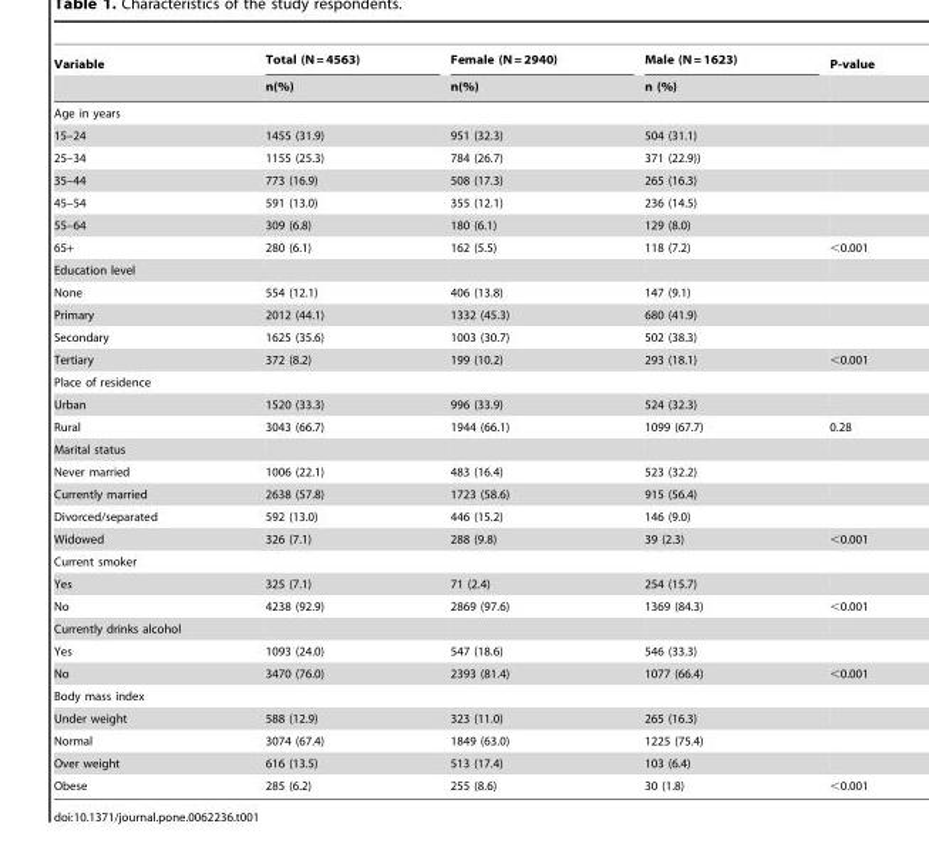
<table><thead><tr><td rowspan="2">Variable</td><td rowspan="2">Total (N = 4563) n(%)</td><td rowspan="2">Female (N = 2940) n(%)</td><td rowspan="2">Male (N = 1623) n (%)</td><td rowspan="2">P-value</td></tr><tr></tr></thead><tbody><tr><td colspan="5">Age in years</td></tr><tr><td>15–24</td><td>1455 (31.9)</td><td>951 (32.3)</td><td>504 (31.1)</td><td></td></tr><tr><td>25–34</td><td>1155 (25.3)</td><td>784 (26.7)</td><td>371 (22.9))</td><td></td></tr><tr><td>35–44</td><td>773 (16.9)</td><td>508 (17.3)</td><td>265 (16.3)</td><td></td></tr><tr><td>45–54</td><td>591 (13.0)</td><td>355 (12.1)</td><td>236 (14.5)</td><td></td></tr><tr><td>55–64</td><td>309 (6.8)</td><td>180 (6.1)</td><td>129 (8.0)</td><td></td></tr><tr><td>65+</td><td>280 (6.1)</td><td>162 (5.5)</td><td>118 (7.2)</td><td>&lt;0.001</td></tr><tr><td colspan="5">Education level</td></tr><tr><td>None</td><td>554 (12.1)</td><td>406 (13.8)</td><td>147 (9.1)</td><td></td></tr><tr><td>Primary</td><td>2012 (44.1)</td><td>1332 (45.3)</td><td>680 (41.9)</td><td></td></tr><tr><td>Secondary</td><td>1625 (35.6)</td><td>1003 (30.7)</td><td>502 (38.3)</td><td></td></tr><tr><td>Tertiary</td><td>372 (8.2)</td><td>199 (10.2)</td><td>293 (18.1)</td><td>&lt;0.001</td></tr><tr><td colspan="5">Place of residence</td></tr><tr><td>Urban</td><td>1520 (33.3)</td><td>996 (33.9)</td><td>524 (32.3)</td><td></td></tr><tr><td>Rural</td><td>3043 (66.7)</td><td>1944 (66.1)</td><td>1099 (67.7)</td><td>0.28</td></tr><tr><td colspan="5">Marital status</td></tr><tr><td>Never married</td><td>1006 (22.1)</td><td>483 (16.4)</td><td>523 (32.2)</td><td></td></tr><tr><td>Currently married</td><td>2638 (57.8)</td><td>1723 (58.6)</td><td>915 (56.4)</td><td></td></tr><tr><td>Divorced/separated</td><td>592 (13.0)</td><td>446 (15.2)</td><td>146 (9.0)</td><td></td></tr><tr><td>Widowed</td><td>326 (7.1)</td><td>288 (9.8)</td><td>39 (2.3)</td><td>&lt;0.001</td></tr><tr><td colspan="5">Current smoker</td></tr><tr><td>Yes</td><td>325 (7.1)</td><td>71 (2.4)</td><td>254 (15.7)</td><td></td></tr><tr><td>No</td><td>4238 (92.9)</td><td>2869 (97.6)</td><td>1369 (84.3)</td><td>&lt;0.001</td></tr><tr><td colspan="5">Currently drinks alcohol</td></tr><tr><td>Yes</td><td>1093 (24.0)</td><td>547 (18.6)</td><td>546 (33.3)</td><td></td></tr><tr><td>No</td><td>3470 (76.0)</td><td>2393 (81.4)</td><td>1077 (66.4)</td><td>&lt;0.001</td></tr><tr><td colspan="5">Body mass index</td></tr><tr><td>Under weight</td><td>588 (12.9)</td><td>323 (11.0)</td><td>265 (16.3)</td><td></td></tr><tr><td>Normal</td><td>3074 (67.4)</td><td>1849 (63.0)</td><td>1225 (75.4)</td><td></td></tr><tr><td>Over weight</td><td>616 (13.5)</td><td>513 (17.4)</td><td>103 (6.4)</td><td></td></tr><tr><td>Obese</td><td>285 (6.2)</td><td>255 (8.6)</td><td>30 (1.8)</td><td>&lt;0.001</td></tr></tbody></table>